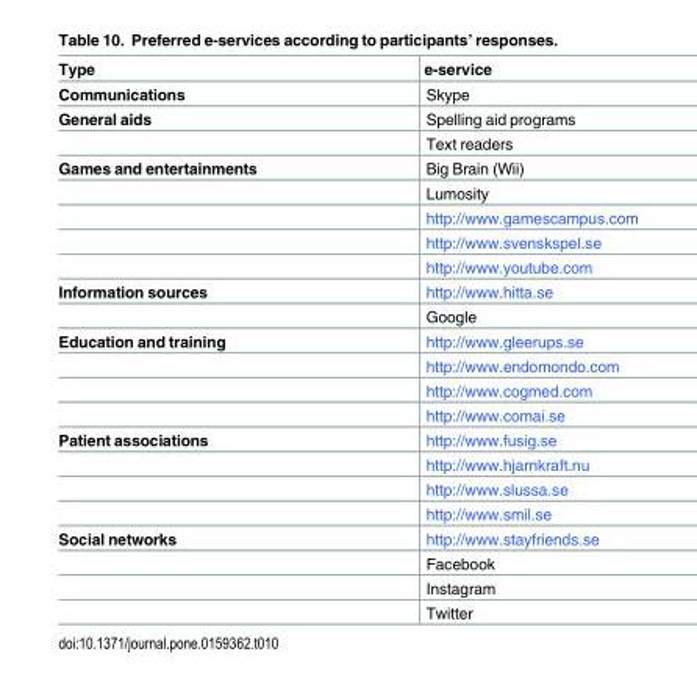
<table><thead><tr><td>Type</td><td>e-service</td></tr></thead><tbody><tr><td>Communications</td><td>Skype</td></tr><tr><td rowspan="2">General aids</td><td>Spelling aid programs</td></tr><tr><td>Text readers</td></tr><tr><td rowspan="5">Games and entertainments</td><td>Big Brain (Wii)</td></tr><tr><td>Lumosity</td></tr><tr><td>http://www.gamescampus.com</td></tr><tr><td>http://www.svenskspel.se</td></tr><tr><td>http://www.youtube.com</td></tr><tr><td rowspan="2">Information sources</td><td>http://www.hitta.se</td></tr><tr><td>Google</td></tr><tr><td rowspan="4">Education and training</td><td>http://www.gleerups.se</td></tr><tr><td>http://www.endomondo.com</td></tr><tr><td>http://www.cogmed.com</td></tr><tr><td>http://www.comai.se</td></tr><tr><td rowspan="4">Patient associations</td><td>http://www.fusig.se</td></tr><tr><td>http://www.hjarnkraft.nu</td></tr><tr><td>http://www.slussa.se</td></tr><tr><td>http://www.smil.se</td></tr><tr><td rowspan="4">Social networks</td><td>http://www.stayfriends.se</td></tr><tr><td>Facebook</td></tr><tr><td>Instagram</td></tr><tr><td>Twitter</td></tr></tbody></table>